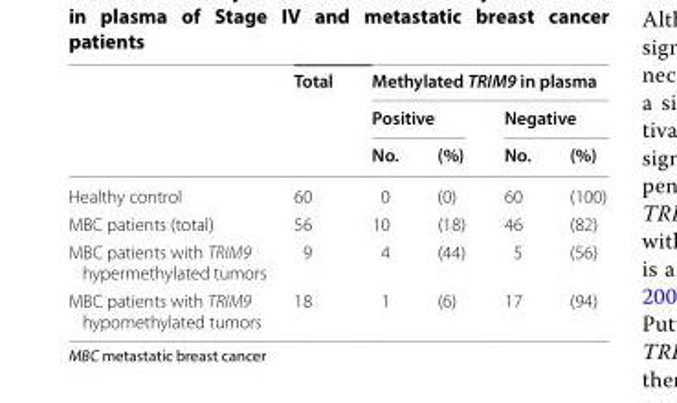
<table><thead><tr><td rowspan="3"></td><td rowspan="3">Total</td><td colspan="4">Methylated TRIM9 in plasma</td></tr><tr><td colspan="2">Positive</td><td colspan="2">Negative</td></tr><tr><td>No.</td><td>(%)</td><td>No.</td><td>(%)</td></tr></thead><tbody><tr><td>Healthy control</td><td>60</td><td>0</td><td>(0)</td><td>60</td><td>(100)</td></tr><tr><td>MBC patients (total)</td><td>56</td><td>10</td><td>(18)</td><td>46</td><td>(82)</td></tr><tr><td>MBC patients with TRIM9 hypermethylated tumors</td><td>9</td><td>4</td><td>(44)</td><td>5</td><td>(56)</td></tr><tr><td>MBC patients with TRIM9 hypomethylated tumors</td><td>18</td><td>1</td><td>(6)</td><td>17</td><td>(94)</td></tr></tbody></table>